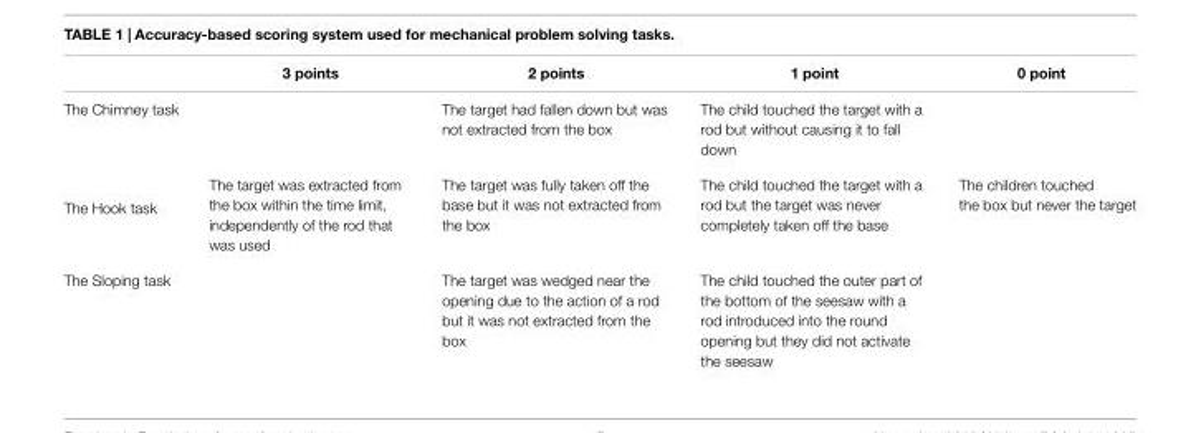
<table><thead><tr><td></td><td>3 points</td><td>2 points</td><td>1 point</td><td>0 point</td></tr></thead><tbody><tr><td>The Chimney task</td><td></td><td>The target had fallen down but was not extracted from the box</td><td>The child touched the target with a rod but without causing it to fall down</td><td></td></tr><tr><td>The Hook task</td><td>The target was extracted from the box within the time limit, independently of the rod that was used</td><td>The target was fully taken off the base but it was not extracted from the box</td><td>The child touched the target with a rod but the target was never completely taken off the base</td><td>The children touched the box but never the target</td></tr><tr><td>The Sloping task</td><td></td><td>The target was wedged near the opening due to the action of a rod but it was not extracted from the box</td><td>The child touched the outer part of the bottom of the seesaw with a rod introduced into the round opening but they did not activate the seesaw</td><td></td></tr></tbody></table>